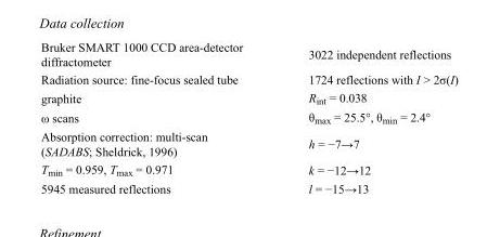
<table><tbody><tr><td>Bruker SMART 1000 CCD area-detector diffractometer</td><td>3022 independent reflections</td></tr><tr><td>Radiation source: fine-focus sealed tube</td><td>1724 reflections with I &gt; 2σ(I)</td></tr><tr><td>graphite</td><td>R<sub>int</sub> = 0.038</td></tr><tr><td>ω scans</td><td>θ<sub>max</sub> = 25.5°, θ<sub>min</sub> = 2.4°</td></tr><tr><td>Absorption correction: multi-scan (SADABS; Sheldrick, 1996)</td><td>h = −7→7</td></tr><tr><td>T<sub>min</sub> = 0.959, T<sub>max</sub> = 0.971</td><td>k = −12→12</td></tr><tr><td>5945 measured reflections</td><td>l = −15→13</td></tr></tbody></table>